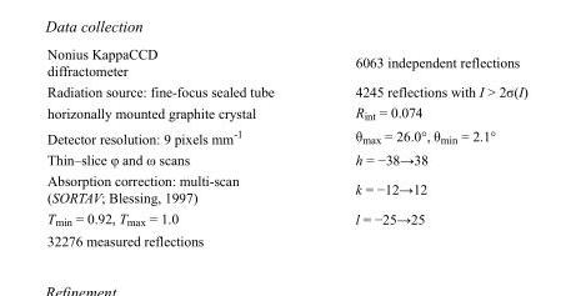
<table><tbody><tr><td>Nonius KappaCCD diffractometer</td><td>6063 independent reflections</td></tr><tr><td>Radiation source: fine-focus sealed tube</td><td>4245 reflections with I &gt; 2σ(I)</td></tr><tr><td>horizonally mounted graphite crystal</td><td>R<sub>int</sub> = 0.074</td></tr><tr><td>Detector resolution: 9 pixels mm<sup>-1</sup></td><td>θ<sub>max</sub> = 26.0°, θ<sub>min</sub> = 2.1°</td></tr><tr><td>Thin–slice φ and ω scans</td><td>h = −38→38</td></tr><tr><td>Absorption correction: multi-scan (SORTAV; Blessing, 1997)</td><td>k = −12→12</td></tr><tr><td>T<sub>min</sub> = 0.92, T<sub>max</sub> = 1.0</td><td>l = −25→25</td></tr><tr><td>32276 measured reflections</td><td></td></tr></tbody></table>